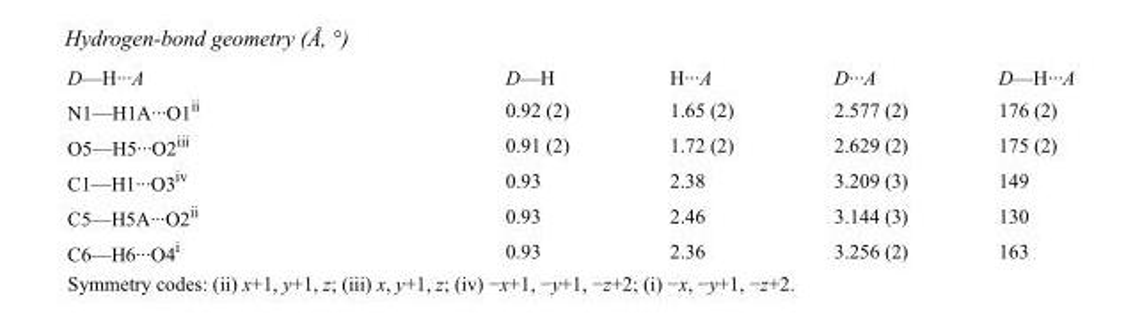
<table><tbody><tr><td>D—H···A</td><td>D—H</td><td>H···A</td><td>D···A</td><td>D—H···A</td></tr><tr><td>N1—H1A···O1<sup>ii</sup></td><td>0.92 (2)</td><td>1.65 (2)</td><td>2.577 (2)</td><td>176 (2)</td></tr><tr><td>O5—H5···O2<sup>iii</sup></td><td>0.91 (2)</td><td>1.72 (2)</td><td>2.629 (2)</td><td>175 (2)</td></tr><tr><td>C1—H1···O3<sup>iv</sup></td><td>0.93</td><td>2.38</td><td>3.209 (3)</td><td>149</td></tr><tr><td>C5—H5A···O2<sup>ii</sup></td><td>0.93</td><td>2.46</td><td>3.144 (3)</td><td>130</td></tr><tr><td>C6—H6···O4<sup>i</sup></td><td>0.93</td><td>2.36</td><td>3.256 (2)</td><td>163</td></tr></tbody></table>